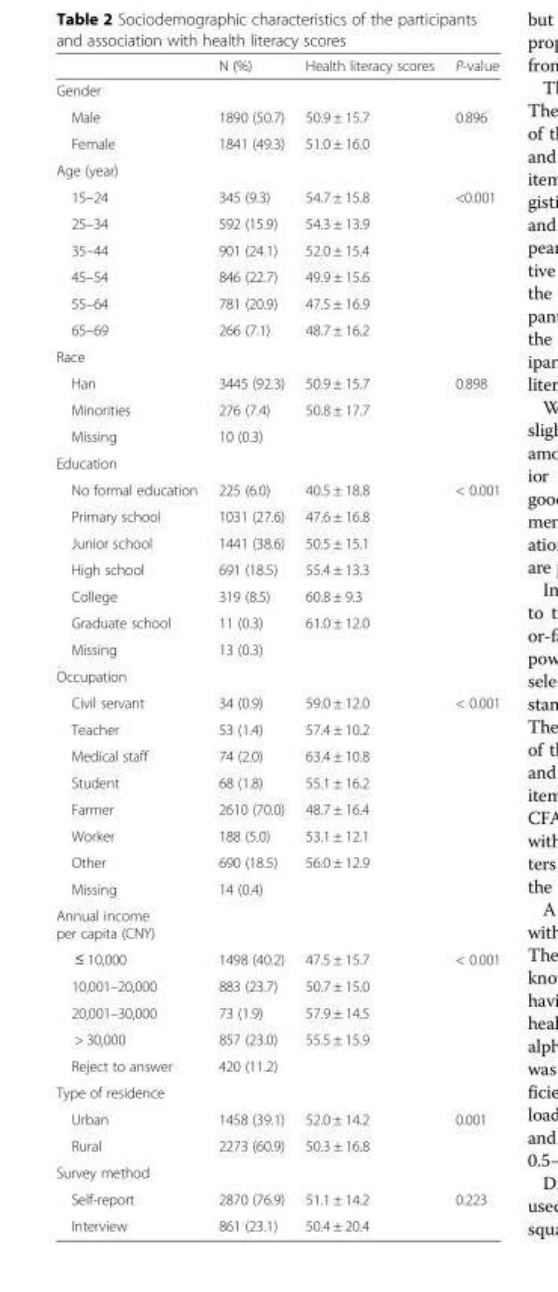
<table><thead><tr><td></td><td>N (%)</td><td>Health literacy scores</td><td>P-value</td></tr></thead><tbody><tr><td colspan="4">Gender</td></tr><tr><td>Male</td><td>1890 (50.7)</td><td>50.9 ± 15.7</td><td>0.896</td></tr><tr><td>Female</td><td>1841 (49.3)</td><td>51.0 ± 16.0</td><td></td></tr><tr><td colspan="4">Age (year)</td></tr><tr><td>15–24</td><td>345 (9.3)</td><td>54.7 ± 15.8</td><td>&lt;0.001</td></tr><tr><td>25–34</td><td>592 (15.9)</td><td>54.3 ± 13.9</td><td></td></tr><tr><td>35–44</td><td>901 (24.1)</td><td>52.0 ± 15.4</td><td></td></tr><tr><td>45–54</td><td>846 (22.7)</td><td>49.9 ± 15.6</td><td></td></tr><tr><td>55–64</td><td>781 (20.9)</td><td>47.5 ± 16.9</td><td></td></tr><tr><td>65–69</td><td>266 (7.1)</td><td>48.7 ± 16.2</td><td></td></tr><tr><td colspan="4">Race</td></tr><tr><td>Han</td><td>3445 (92.3)</td><td>50.9 ± 15.7</td><td>0.898</td></tr><tr><td>Minorities</td><td>276 (7.4)</td><td>50.8 ± 17.7</td><td></td></tr><tr><td>Missing</td><td>10 (0.3)</td><td></td><td></td></tr><tr><td colspan="4">Education</td></tr><tr><td>No formal education</td><td>225 (6.0)</td><td>40.5 ± 18.8</td><td>&lt; 0.001</td></tr><tr><td>Primary school</td><td>1031 (27.6)</td><td>47.6 ± 16.8</td><td></td></tr><tr><td>Junior school</td><td>1441 (38.6)</td><td>50.5 ± 15.1</td><td></td></tr><tr><td>High school</td><td>691 (18.5)</td><td>55.4 ± 13.3</td><td></td></tr><tr><td>College</td><td>319 (8.5)</td><td>60.8 ± 9.3</td><td></td></tr><tr><td>Graduate school</td><td>11 (0.3)</td><td>61.0 ± 12.0</td><td></td></tr><tr><td>Missing</td><td>13 (0.3)</td><td></td><td></td></tr><tr><td colspan="4">Occupation</td></tr><tr><td>Civil servant</td><td>34 (0.9)</td><td>59.0 ± 12.0</td><td>&lt; 0.001</td></tr><tr><td>Teacher</td><td>53 (1.4)</td><td>57.4 ± 10.2</td><td></td></tr><tr><td>Medical staff</td><td>74 (2.0)</td><td>63.4 ± 10.8</td><td></td></tr><tr><td>Student</td><td>68 (1.8)</td><td>55.1 ± 16.2</td><td></td></tr><tr><td>Farmer</td><td>2610 (70.0)</td><td>48.7 ± 16.4</td><td></td></tr><tr><td>Worker</td><td>188 (5.0)</td><td>53.1 ± 12.1</td><td></td></tr><tr><td>Other</td><td>690 (18.5)</td><td>56.0 ± 12.9</td><td></td></tr><tr><td>Missing</td><td>14 (0.4)</td><td></td><td></td></tr><tr><td colspan="4">Annual income per capita (CNY)</td></tr><tr><td>≤ 10,000</td><td>1498 (40.2)</td><td>47.5 ± 15.7</td><td>&lt; 0.001</td></tr><tr><td>10,001–20,000</td><td>883 (23.7)</td><td>50.7 ± 15.0</td><td></td></tr><tr><td>20,001–30,000</td><td>73 (1.9)</td><td>57.9 ± 14.5</td><td></td></tr><tr><td>&gt; 30,000</td><td>857 (23.0)</td><td>55.5 ± 15.9</td><td></td></tr><tr><td>Reject to answer</td><td>420 (11.2)</td><td></td><td></td></tr><tr><td colspan="4">Type of residence</td></tr><tr><td>Urban</td><td>1458 (39.1)</td><td>52.0 ± 14.2</td><td>0.001</td></tr><tr><td>Rural</td><td>2273 (60.9)</td><td>50.3 ± 16.8</td><td></td></tr><tr><td colspan="4">Survey method</td></tr><tr><td>Self-report</td><td>2870 (76.9)</td><td>51.1 ± 14.2</td><td>0.223</td></tr><tr><td>Interview</td><td>861 (23.1)</td><td>50.4 ± 20.4</td><td></td></tr></tbody></table>